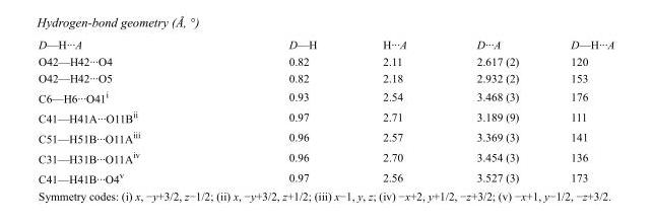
<table><tbody><tr><td>D—H···A</td><td>D—H</td><td>H···A</td><td>D···A</td><td>D—H···A</td></tr><tr><td>O42—H42···O4</td><td>0.82</td><td>2.11</td><td>2.617 (2)</td><td>120</td></tr><tr><td>O42—H42···O5</td><td>0.82</td><td>2.18</td><td>2.932 (2)</td><td>153</td></tr><tr><td>C6—H6···O41<sup>i</sup></td><td>0.93</td><td>2.54</td><td>3.468 (3)</td><td>176</td></tr><tr><td>C41—H41A···O11B<sup>ii</sup></td><td>0.97</td><td>2.71</td><td>3.189 (9)</td><td>111</td></tr><tr><td>C51—H51B···O11A<sup>iii</sup></td><td>0.96</td><td>2.57</td><td>3.369 (3)</td><td>141</td></tr><tr><td>C31—H31B···O11A<sup>iv</sup></td><td>0.96</td><td>2.70</td><td>3.454 (3)</td><td>136</td></tr><tr><td>C41—H41B···O4<sup>v</sup></td><td>0.97</td><td>2.56</td><td>3.527 (3)</td><td>173</td></tr></tbody></table>